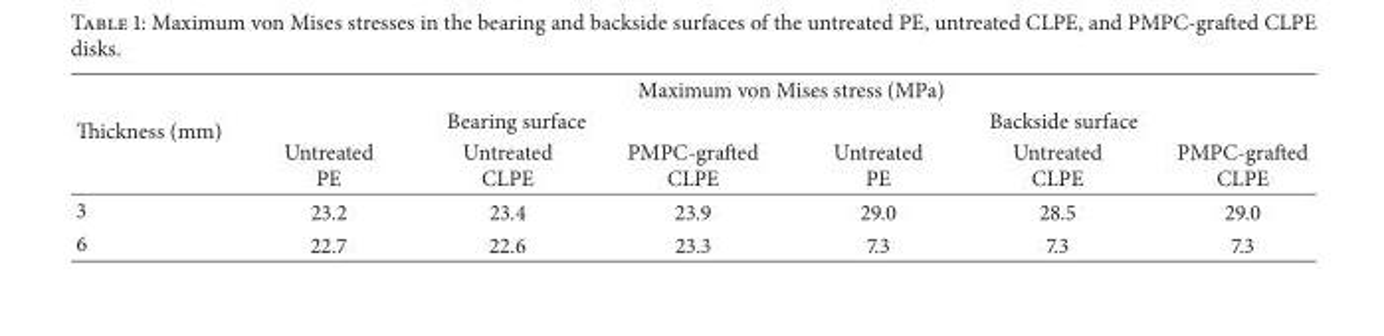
<table><thead><tr><td rowspan="3">Thickness (mm)</td><td colspan="6">Maximum von Mises stress (MPa)</td></tr><tr><td colspan="3">Bearing surface</td><td colspan="3">Backside surface</td></tr><tr><td>Untreated PE</td><td>Untreated CLPE</td><td>PMPC-grafted CLPE</td><td>Untreated PE</td><td>Untreated CLPE</td><td>PMPC-grafted CLPE</td></tr></thead><tbody><tr><td>3</td><td>23.2</td><td>23.4</td><td>23.9</td><td>29.0</td><td>28.5</td><td>29.0</td></tr><tr><td>6</td><td>22.7</td><td>22.6</td><td>23.3</td><td>7.3</td><td>7.3</td><td>7.3</td></tr></tbody></table>